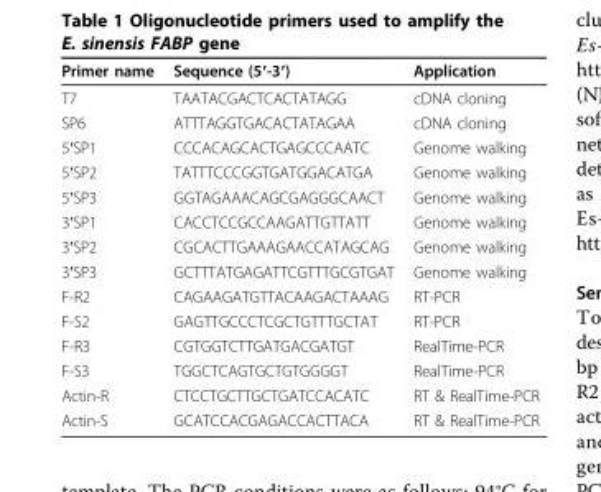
<table><thead><tr><td>Primer name</td><td>Sequence (5′-3′)</td><td>Application</td></tr></thead><tbody><tr><td>T7</td><td>TAATACGACTCACTATAGG</td><td>cDNA cloning</td></tr><tr><td>SP6</td><td>ATTTAGGTGACACTATAGAA</td><td>cDNA cloning</td></tr><tr><td>5′SP1</td><td>CCCACAGCACTGAGCCCAATC</td><td>Genome walking</td></tr><tr><td>5′SP2</td><td>TATTTCCCGGTGATGGACATGA</td><td>Genome walking</td></tr><tr><td>5′SP3</td><td>GGTAGAAACAGCGAGGGCAACT</td><td>Genome walking</td></tr><tr><td>3′SP1</td><td>CACCTCCGCCAAGATTGTTATT</td><td>Genome walking</td></tr><tr><td>3′SP2</td><td>CGCACTTGAAAGAACCATAGCAG</td><td>Genome walking</td></tr><tr><td>3′SP3</td><td>GCTTTATGAGATTCGTTTGCGTGAT</td><td>Genome walking</td></tr><tr><td>F-R2</td><td>CAGAAGATGTTACAAGACTAAAG</td><td>RT-PCR</td></tr><tr><td>F-S2</td><td>GAGTTGCCCTCGCTGTTTGCTAT</td><td>RT-PCR</td></tr><tr><td>F-R3</td><td>CGTGGTCTTGATGACGATGT</td><td>RealTime-PCR</td></tr><tr><td>F-S3</td><td>TGGCTCAGTGCTGTGGGGT</td><td>RealTime-PCR</td></tr><tr><td>Actin-R</td><td>CTCCTGCTTGCTGATCCACATC</td><td>RT &amp; RealTime-PCR</td></tr><tr><td>Actin-S</td><td>GCATCCACGAGACCACTTACA</td><td>RT &amp; RealTime-PCR</td></tr></tbody></table>